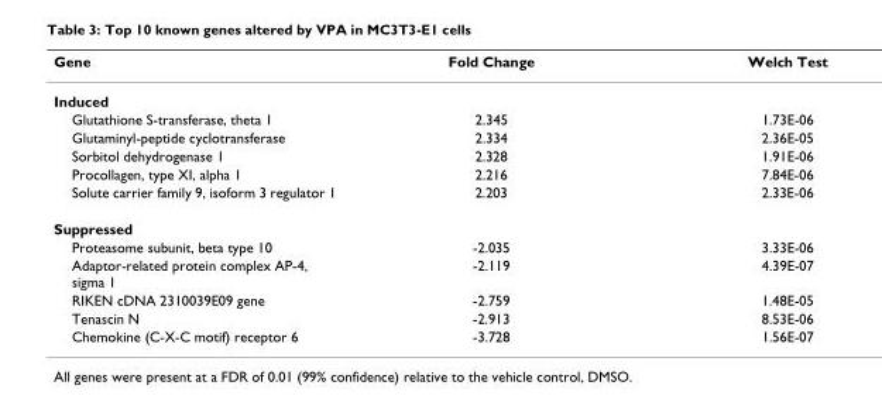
<table><thead><tr><td>Gene</td><td>Fold Change</td><td>Welch Test</td></tr></thead><tbody><tr><td colspan="3">Induced</td></tr><tr><td>Glutathione S-transferase, theta 1</td><td>2.345</td><td>1.73E-06</td></tr><tr><td>Glutaminyl-peptide cyclotransferase</td><td>2.334</td><td>2.36E-05</td></tr><tr><td>Sorbitol dehydrogenase 1</td><td>2.328</td><td>1.91E-06</td></tr><tr><td>Procollagen, type XI, alpha 1</td><td>2.216</td><td>7.84E-06</td></tr><tr><td>Solute carrier family 9, isoform 3 regulator 1</td><td>2.203</td><td>2.33E-06</td></tr><tr><td colspan="3">Suppressed</td></tr><tr><td>Proteasome subunit, beta type 10</td><td>-2.035</td><td>3.33E-06</td></tr><tr><td>Adaptor-related protein complex AP-4, sigma 1</td><td>-2.119</td><td>4.39E-07</td></tr><tr><td>RIKEN cDNA 2310039E09 gene</td><td>-2.759</td><td>1.48E-05</td></tr><tr><td>Tenascin N</td><td>-2.913</td><td>8.53E-06</td></tr><tr><td>Chemokine (C-X-C motif) receptor 6</td><td>-3.728</td><td>1.56E-07</td></tr></tbody></table>